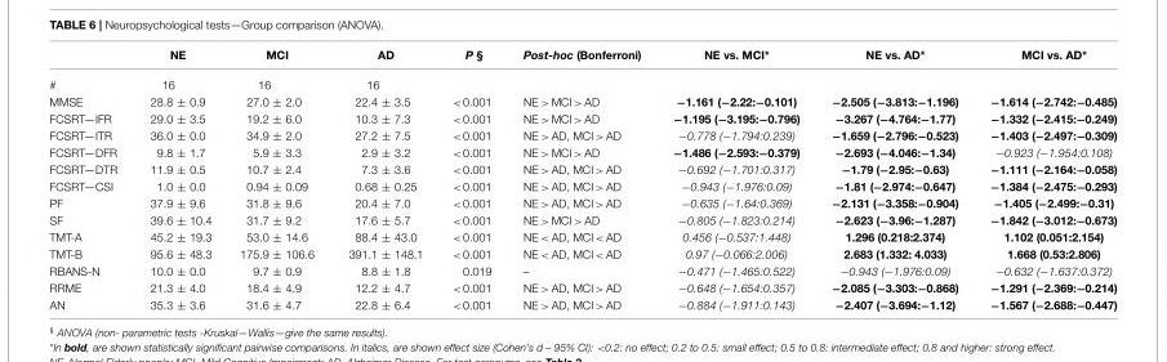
<table><thead><tr><td></td><td>NE</td><td>MCI</td><td>AD</td><td>P §</td><td>Post-hoc (Bonferroni)</td><td>NE vs. MCI*</td><td>NE vs. AD*</td><td>MCI vs. AD*</td></tr></thead><tbody><tr><td>#</td><td>16</td><td>16</td><td>16</td><td></td><td></td><td></td><td></td><td></td></tr><tr><td>MMSE</td><td>28.8 ± 0.9</td><td>27.0 ± 2.0</td><td>22.4 ± 3.5</td><td>&lt;0.001</td><td>NE &gt; MCI &gt; AD</td><td>−1.161 (−2.22:−0.101)</td><td>−2.505 (−3.813:−1.196)</td><td>−1.614 (−2.742:−0.485)</td></tr><tr><td>FCSRT—IFR</td><td>29.0 ± 3.5</td><td>19.2 ± 6.0</td><td>10.3 ± 7.3</td><td>&lt;0.001</td><td>NE &gt; MCI &gt; AD</td><td>−1.195 (−3.195:−0.796)</td><td>−3.267 (−4.764:−1.77)</td><td>−1.332 (−2.415:−0.249)</td></tr><tr><td>FCSRT—ITR</td><td>36.0 ± 0.0</td><td>34.9 ± 2.0</td><td>27.2 ± 7.5</td><td>&lt;0.001</td><td>NE &gt; AD, MCI &gt; AD</td><td>−0.778 (−1.794:0.239)</td><td>−1.659 (−2.796:−0.523)</td><td>−1.403 (−2.497:−0.309)</td></tr><tr><td>FCSRT—DFR</td><td>9.8 ± 1.7</td><td>5.9 ± 3.3</td><td>2.9 ± 3.2</td><td>&lt;0.001</td><td>NE &gt; MCI &gt; AD</td><td>−1.486 (−2.593:−0.379)</td><td>−2.693 (−4.046:−1.34)</td><td>−0.923 (−1.954:0.108)</td></tr><tr><td>FCSRT—DTR</td><td>11.9 ± 0.5</td><td>10.7 ± 2.4</td><td>7.3 ± 3.6</td><td>&lt;0.001</td><td>NE &gt; AD, MCI &gt; AD</td><td>−0.692 (−1.701:0.317)</td><td>−1.79 (−2.95:−0.63)</td><td>−1.111 (−2.164:−0.058)</td></tr><tr><td>FCSRT—CSI</td><td>1.0 ± 0.0</td><td>0.94 ± 0.09</td><td>0.68 ± 0.25</td><td>&lt;0.001</td><td>NE &gt; AD, MCI &gt; AD</td><td>−0.943 (−1.976:0.09)</td><td>−1.81 (−2.974:−0.647)</td><td>−1.384 (−2.475:−0.293)</td></tr><tr><td>PF</td><td>37.9 ± 9.6</td><td>31.8 ± 9.6</td><td>20.4 ± 7.0</td><td>&lt;0.001</td><td>NE &gt; AD, MCI &gt; AD</td><td>−0.635 (−1.64:0.369)</td><td>−2.131 (−3.358:−0.904)</td><td>−1.405 (−2.499:−0.31)</td></tr><tr><td>SF</td><td>39.6 ± 10.4</td><td>31.7 ± 9.2</td><td>17.6 ± 5.7</td><td>&lt;0.001</td><td>NE &gt; MCI &gt; AD</td><td>−0.805 (−1.823:0.214)</td><td>−2.623 (−3.96:−1.287)</td><td>−1.842 (−3.012:−0.673)</td></tr><tr><td>TMT-A</td><td>45.2 ± 19.3</td><td>53.0 ± 14.6</td><td>88.4 ± 43.0</td><td>&lt;0.001</td><td>NE &lt; AD, MCI &lt; AD</td><td>0.456 (−0.537:1.448)</td><td>1.296 (0.218:2.374)</td><td>1.102 (0.051:2.154)</td></tr><tr><td>TMT-B</td><td>95.6 ± 48.3</td><td>175.9 ± 106.6</td><td>391.1 ± 148.1</td><td>&lt;0.001</td><td>NE &lt; AD, MCI &lt; AD</td><td>0.97 (−0.066:2.006)</td><td>2.683 (1.332: 4.033)</td><td>1.668 (0.53:2.806)</td></tr><tr><td>RBANS-N</td><td>10.0 ± 0.0</td><td>9.7 ± 0.9</td><td>8.8 ± 1.8</td><td>0.019</td><td>–</td><td>−0.471 (−1.465:0.522)</td><td>−0.943 (−1.976:0.09)</td><td>−0.632 (−1.637:0.372)</td></tr><tr><td>RRME</td><td>21.3 ± 4.0</td><td>18.4 ± 4.9</td><td>12.2 ± 4.7</td><td>&lt;0.001</td><td>NE &gt; AD, MCI &gt; AD</td><td>−0.648 (−1.654:0.357)</td><td>−2.085 (−3.303:−0.868)</td><td>−1.291 (−2.369:−0.214)</td></tr><tr><td>AN</td><td>35.3 ± 3.6</td><td>31.6 ± 4.7</td><td>22.8 ± 6.4</td><td>&lt;0.001</td><td>NE &gt; AD, MCI &gt; AD</td><td>−0.884 (−1.911:0.143)</td><td>−2.407 (−3.694:−1.12)</td><td>−1.567 (−2.688:−0.447)</td></tr></tbody></table>